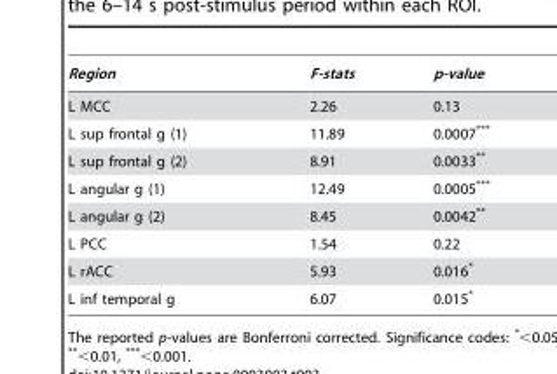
<table><thead><tr><td>Region</td><td>F-stats</td><td>p-value</td></tr></thead><tbody><tr><td>L MCC</td><td>2.26</td><td>0.13</td></tr><tr><td>L sup frontal g (1)</td><td>11.89</td><td>0.0007***</td></tr><tr><td>L sup frontal g (2)</td><td>8.91</td><td>0.0033**</td></tr><tr><td>L angular g (1)</td><td>12.49</td><td>0.0005***</td></tr><tr><td>L angular g (2)</td><td>8.45</td><td>0.0042**</td></tr><tr><td>L PCC</td><td>1.54</td><td>0.22</td></tr><tr><td>L rACC</td><td>5.93</td><td>0.016*</td></tr><tr><td>L inf temporal g</td><td>6.07</td><td>0.015*</td></tr></tbody></table>